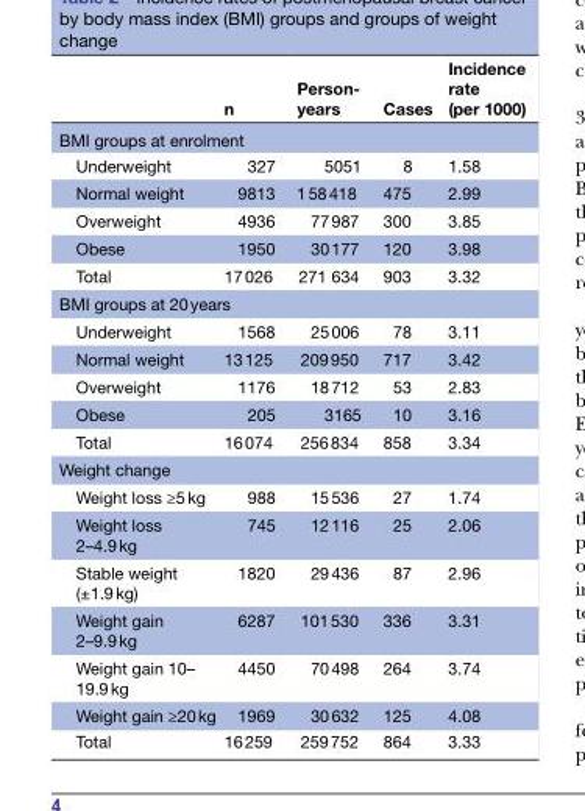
<table><thead><tr><td></td><td>n</td><td>Person- years</td><td>Cases</td><td>Incidence rate (per 1000)</td></tr></thead><tbody><tr><td colspan="5">BMI groups at enrolment</td></tr><tr><td>Underweight</td><td>327</td><td>5051</td><td>8</td><td>1.58</td></tr><tr><td>Normal weight</td><td>9813</td><td>1 58 418</td><td>475</td><td>2.99</td></tr><tr><td>Overweight</td><td>4936</td><td>77 987</td><td>300</td><td>3.85</td></tr><tr><td>Obese</td><td>1950</td><td>30 177</td><td>120</td><td>3.98</td></tr><tr><td>Total</td><td>17 026</td><td>271 634</td><td>903</td><td>3.32</td></tr><tr><td colspan="5">BMI groups at 20 years</td></tr><tr><td>Underweight</td><td>1568</td><td>25 006</td><td>78</td><td>3.11</td></tr><tr><td>Normal weight</td><td>13 125</td><td>209 950</td><td>717</td><td>3.42</td></tr><tr><td>Overweight</td><td>1176</td><td>18 712</td><td>53</td><td>2.83</td></tr><tr><td>Obese</td><td>205</td><td>3165</td><td>10</td><td>3.16</td></tr><tr><td>Total</td><td>16 074</td><td>256 834</td><td>858</td><td>3.34</td></tr><tr><td colspan="5">Weight change</td></tr><tr><td>Weight loss ≥5 kg</td><td>988</td><td>15 536</td><td>27</td><td>1.74</td></tr><tr><td>Weight loss 2–4.9 kg</td><td>745</td><td>12 116</td><td>25</td><td>2.06</td></tr><tr><td>Stable weight (±1.9 kg)</td><td>1820</td><td>29 436</td><td>87</td><td>2.96</td></tr><tr><td>Weight gain 2–9.9 kg</td><td>6287</td><td>101 530</td><td>336</td><td>3.31</td></tr><tr><td>Weight gain 10– 19.9 kg</td><td>4450</td><td>70 498</td><td>264</td><td>3.74</td></tr><tr><td>Weight gain ≥20 kg</td><td>1969</td><td>30 632</td><td>125</td><td>4.08</td></tr><tr><td>Total</td><td>16 259</td><td>259 752</td><td>864</td><td>3.33</td></tr></tbody></table>